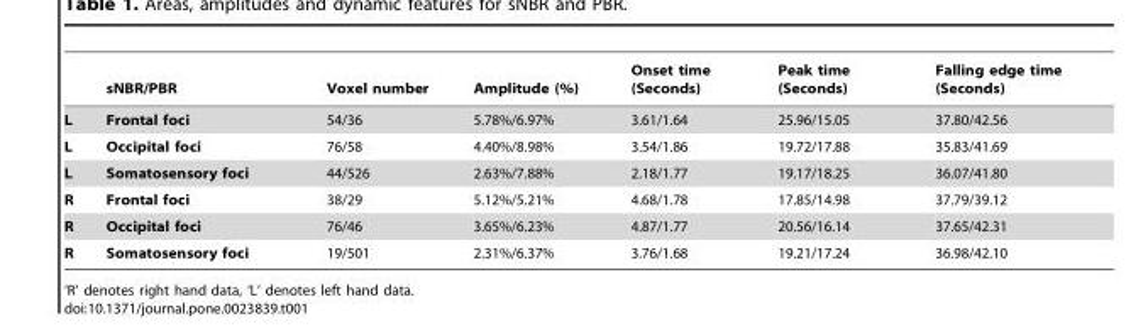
<table><thead><tr><td></td><td>sNBR/PBR</td><td>Voxel number</td><td>Amplitude (%)</td><td>Onset time (Seconds)</td><td>Peak time (Seconds)</td><td>Falling edge time (Seconds)</td></tr></thead><tbody><tr><td>L</td><td>Frontal foci</td><td>54/36</td><td>5.78%/6.97%</td><td>3.61/1.64</td><td>25.96/15.05</td><td>37.80/42.56</td></tr><tr><td>L</td><td>Occipital foci</td><td>76/58</td><td>4.40%/8.98%</td><td>3.54/1.86</td><td>19.72/17.88</td><td>35.83/41.69</td></tr><tr><td>L</td><td>Somatosensory foci</td><td>44/526</td><td>2.63%/7.88%</td><td>2.18/1.77</td><td>19.17/18.25</td><td>36.07/41.80</td></tr><tr><td>R</td><td>Frontal foci</td><td>38/29</td><td>5.12%/5.21%</td><td>4.68/1.78</td><td>17.85/14.98</td><td>37.79/39.12</td></tr><tr><td>R</td><td>Occipital foci</td><td>76/46</td><td>3.65%/6.23%</td><td>4.87/1.77</td><td>20.56/16.14</td><td>37.65/42.31</td></tr><tr><td>R</td><td>Somatosensory foci</td><td>19/501</td><td>2.31%/6.37%</td><td>3.76/1.68</td><td>19.21/17.24</td><td>36.98/42.10</td></tr></tbody></table>